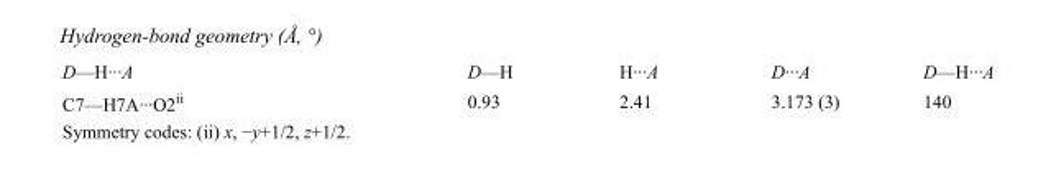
<table><tbody><tr><td>D—H···A</td><td>D—H</td><td>H···A</td><td>D···A</td><td>D—H···A</td></tr><tr><td>C7—H7A···O2<sup>ii</sup></td><td>0.93</td><td>2.41</td><td>3.173 (3)</td><td>140</td></tr></tbody></table>